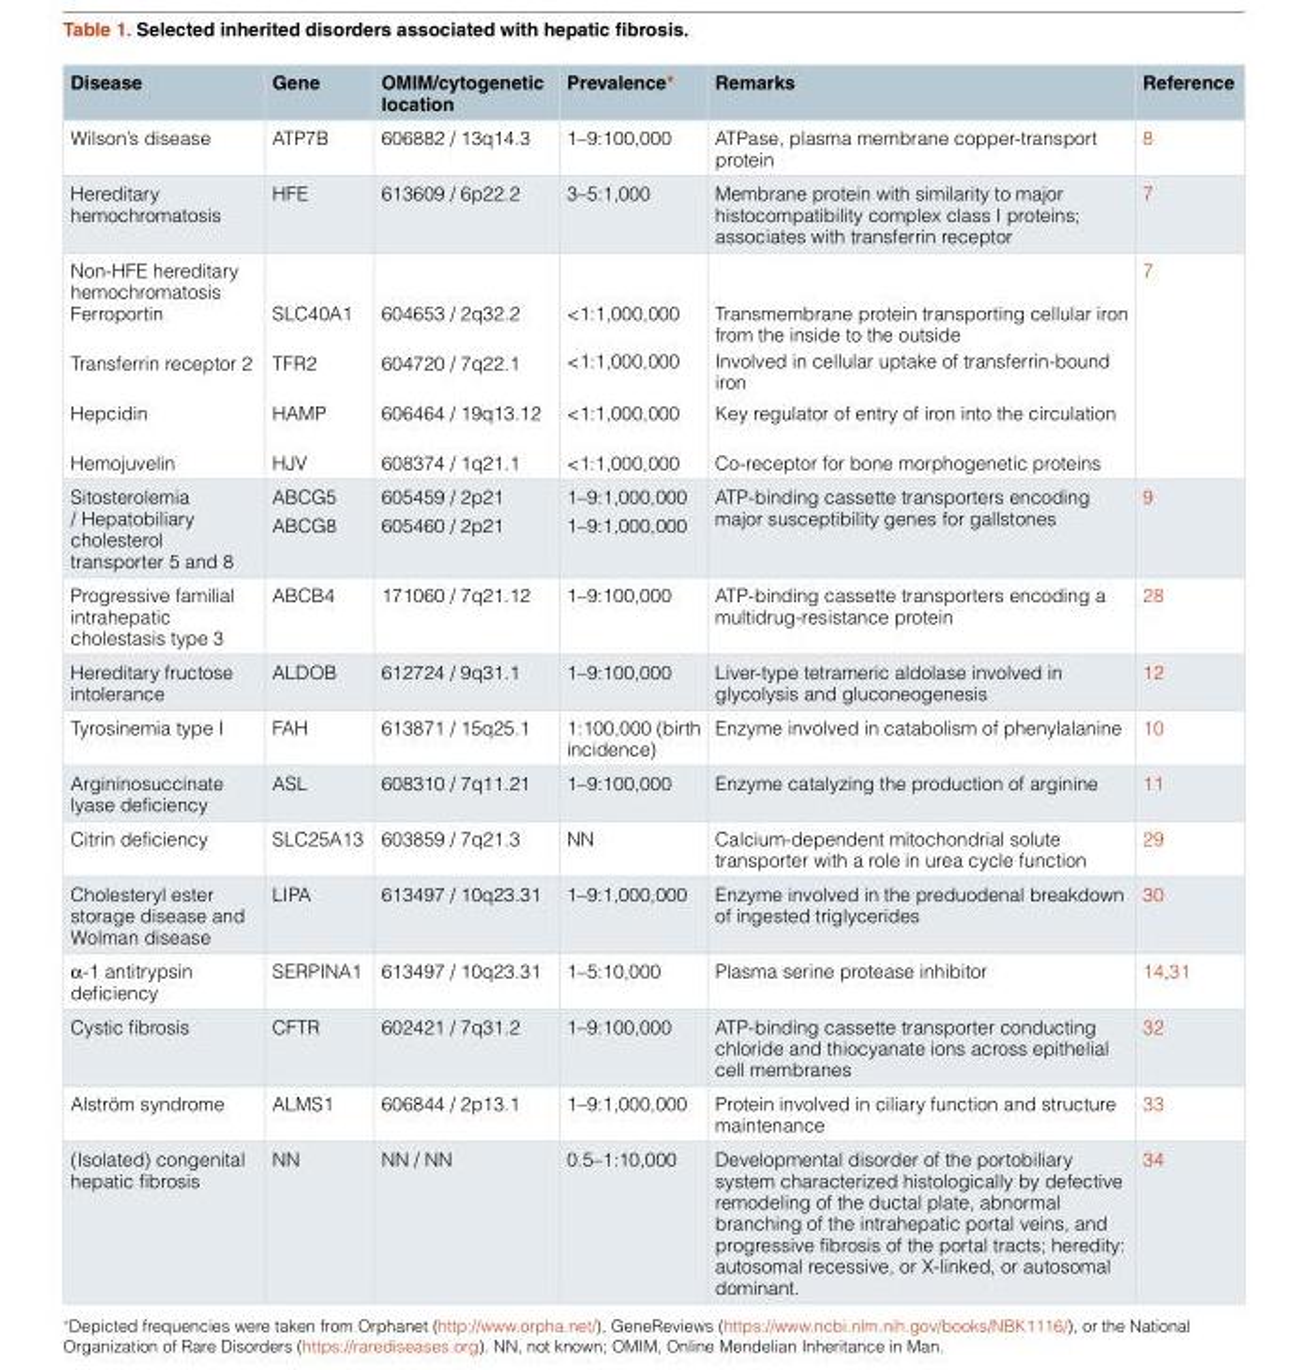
<table><thead><tr><td>Disease</td><td>Gene</td><td>OMIM/cytogenetic location</td><td>Prevalence*</td><td>Remarks</td><td>Reference</td></tr></thead><tbody><tr><td>Wilson’s disease</td><td>ATP7B</td><td>606882 / 13q14.3</td><td>1–9:100,000</td><td>ATPase, plasma membrane copper-transport protein</td><td>8</td></tr><tr><td>Hereditary hemochromatosis</td><td>HFE</td><td>613609 / 6p22.2</td><td>3–5:1,000</td><td>Membrane protein with similarity to major histocompatibility complex class I proteins; associates with transferrin receptor</td><td>7</td></tr><tr><td>Non-HFE hereditary hemochromatosis Ferroportin Transferrin receptor 2 Hepcidin Hemojuvelin</td><td>SLC40A1 TFR2 HAMP HJV</td><td>604653 / 2q32.2 604720 / 7q22.1 606464 / 19q13.12 608374 / 1q21.1</td><td>&lt;1:1,000,000 &lt;1:1,000,000 &lt;1:1,000,000 &lt;1:1,000,000</td><td>Transmembrane protein transporting cellular iron from the inside to the outside Involved in cellular uptake of transferrin-bound iron Key regulator of entry of iron into the circulation Co-receptor for bone morphogenetic proteins</td><td>7</td></tr><tr><td>Sitosterolemia / Hepatobiliary cholesterol transporter 5 and 8</td><td>ABCG5 ABCG8</td><td>605459 / 2p21 605460 / 2p21</td><td>1–9:1,000,000 1–9:1,000,000</td><td>ATP-binding cassette transporters encoding major susceptibility genes for gallstones</td><td>9</td></tr><tr><td>Progressive familial intrahepatic cholestasis type 3</td><td>ABCB4</td><td>171060 / 7q21.12</td><td>1–9:100,000</td><td>ATP-binding cassette transporters encoding a multidrug-resistance protein</td><td>28</td></tr><tr><td>Hereditary fructose intolerance</td><td>ALDOB</td><td>612724 / 9q31.1</td><td>1–9:100,000</td><td>Liver-type tetrameric aldolase involved in glycolysis and gluconeogenesis</td><td>12</td></tr><tr><td>Tyrosinemia type I</td><td>FAH</td><td>613871 / 15q25.1</td><td>1:100,000 (birth incidence)</td><td>Enzyme involved in catabolism of phenylalanine</td><td>10</td></tr><tr><td>Argininosuccinate lyase deficiency</td><td>ASL</td><td>608310 / 7q11.21</td><td>1–9:100,000</td><td>Enzyme catalyzing the production of arginine</td><td>11</td></tr><tr><td>Citrin deficiency</td><td>SLC25A13</td><td>603859 / 7q21.3</td><td>NN</td><td>Calcium-dependent mitochondrial solute transporter with a role in urea cycle function</td><td>29</td></tr><tr><td>Cholesteryl ester storage disease and Wolman disease</td><td>LIPA</td><td>613497 / 10q23.31</td><td>1–9:1,000,000</td><td>Enzyme involved in the preduodenal breakdown of ingested triglycerides</td><td>30</td></tr><tr><td>α-1 antitrypsin deficiency</td><td>SERPINA1</td><td>613497 / 10q23.31</td><td>1–5:10,000</td><td>Plasma serine protease inhibitor</td><td>14,31</td></tr><tr><td>Cystic fibrosis</td><td>CFTR</td><td>602421 / 7q31.2</td><td>1–9:100,000</td><td>ATP-binding cassette transporter conducting chloride and thiocyanate ions across epithelial cell membranes</td><td>32</td></tr><tr><td>Alström syndrome</td><td>ALMS1</td><td>606844 / 2p13.1</td><td>1–9:1,000,000</td><td>Protein involved in ciliary function and structure maintenance</td><td>33</td></tr><tr><td>(Isolated) congenital hepatic fibrosis</td><td>NN</td><td>NN / NN</td><td>0.5–1:10,000</td><td>Developmental disorder of the portobiliary system characterized histologically by defective remodeling of the ductal plate, abnormal branching of the intrahepatic portal veins, and progressive fibrosis of the portal tracts; heredity: autosomal recessive, or X-linked, or autosomal dominant.</td><td>34</td></tr></tbody></table>